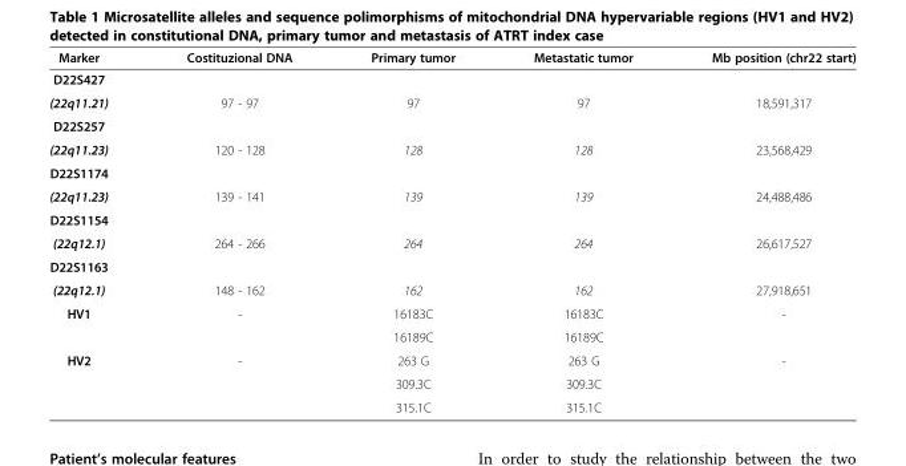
<table><thead><tr><td>Marker</td><td>Costituzional DNA</td><td>Primary tumor</td><td>Metastatic tumor</td><td>Mb position (chr22 start)</td></tr></thead><tbody><tr><td colspan="5">D22S427</td></tr><tr><td>(22q11.21)</td><td>97 - 97</td><td>97</td><td>97</td><td>18,591,317</td></tr><tr><td colspan="5">D22S257</td></tr><tr><td>(22q11.23)</td><td>120 - 128</td><td>128</td><td>128</td><td>23,568,429</td></tr><tr><td colspan="5">D22S1174</td></tr><tr><td>(22q11.23)</td><td>139 - 141</td><td>139</td><td>139</td><td>24,488,486</td></tr><tr><td colspan="5">D22S1154</td></tr><tr><td>(22q12.1)</td><td>264 - 266</td><td>264</td><td>264</td><td>26,617,527</td></tr><tr><td colspan="5">D22S1163</td></tr><tr><td>(22q12.1)</td><td>148 - 162</td><td>162</td><td>162</td><td>27,918,651</td></tr><tr><td rowspan="2">HV1</td><td>-</td><td>16183C</td><td>16183C</td><td>-</td></tr><tr><td></td><td>16189C</td><td>16189C</td><td></td></tr><tr><td rowspan="3">HV2</td><td>-</td><td>263 G</td><td>263 G</td><td>-</td></tr><tr><td></td><td>309.3C</td><td>309.3C</td><td></td></tr><tr><td></td><td>315.1C</td><td>315.1C</td><td></td></tr></tbody></table>